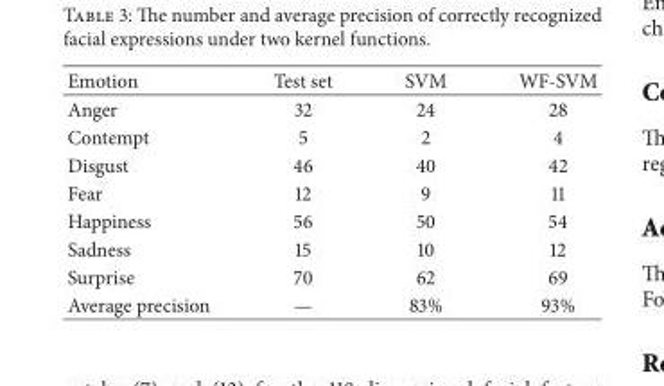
<table><thead><tr><td>Emotion</td><td>Test set</td><td>SVM</td><td>WF-SVM</td></tr></thead><tbody><tr><td>Anger</td><td>32</td><td>24</td><td>28</td></tr><tr><td>Contempt</td><td>5</td><td>2</td><td>4</td></tr><tr><td>Disgust</td><td>46</td><td>40</td><td>42</td></tr><tr><td>Fear</td><td>12</td><td>9</td><td>11</td></tr><tr><td>Happiness</td><td>56</td><td>50</td><td>54</td></tr><tr><td>Sadness</td><td>15</td><td>10</td><td>12</td></tr><tr><td>Surprise</td><td>70</td><td>62</td><td>69</td></tr><tr><td>Average precision</td><td>—</td><td>83%</td><td>93%</td></tr></tbody></table>